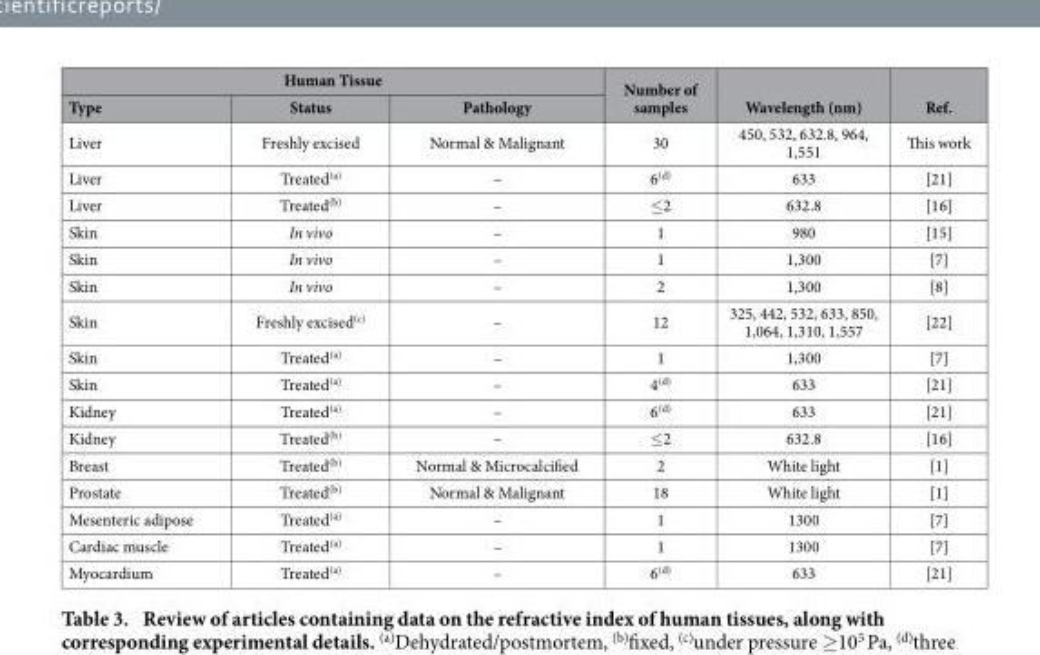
<table><thead><tr><td colspan="3">Human Tissue</td><td rowspan="2">Number of samples</td><td rowspan="2">Wavelength (nm)</td><td rowspan="2">Ref.</td></tr><tr><td>Type</td><td>Status</td><td>Pathology</td></tr></thead><tbody><tr><td>Liver</td><td>Freshly excised</td><td>Normal &amp; Malignant</td><td>30</td><td>450, 532, 632.8, 964, 1,551</td><td>This work</td></tr><tr><td>Liver</td><td>Treated<sup>(a)</sup></td><td>–</td><td>6<sup>(d)</sup></td><td>633</td><td>[21]</td></tr><tr><td>Liver</td><td>Treated<sup>(b)</sup></td><td>–</td><td>≤ 2</td><td>632.8</td><td>[16]</td></tr><tr><td>Skin</td><td>In vivo</td><td>–</td><td>1</td><td>980</td><td>[15]</td></tr><tr><td>Skin</td><td>In vivo</td><td>–</td><td>1</td><td>1,300</td><td>[7]</td></tr><tr><td>Skin</td><td>In vivo</td><td>–</td><td>2</td><td>1,300</td><td>[8]</td></tr><tr><td>Skin</td><td>Freshly excised<sup>(c)</sup></td><td>–</td><td>12</td><td>325, 442, 532, 633, 850, 1,064, 1,310, 1,557</td><td>[22]</td></tr><tr><td>Skin</td><td>Treated<sup>(a)</sup></td><td>–</td><td>1</td><td>1,300</td><td>[7]</td></tr><tr><td>Skin</td><td>Treated<sup>(a)</sup></td><td>–</td><td>4<sup>(d)</sup></td><td>633</td><td>[21]</td></tr><tr><td>Kidney</td><td>Treated<sup>(a)</sup></td><td>–</td><td>6<sup>(d)</sup></td><td>633</td><td>[21]</td></tr><tr><td>Kidney</td><td>Treated<sup>(b)</sup></td><td>–</td><td>≤ 2</td><td>632.8</td><td>[16]</td></tr><tr><td>Breast</td><td>Treated<sup>(b)</sup></td><td>Normal &amp; Microcalcified</td><td>2</td><td>White light</td><td>[1]</td></tr><tr><td>Prostate</td><td>Treated<sup>(b)</sup></td><td>Normal &amp; Malignant</td><td>18</td><td>White light</td><td>[1]</td></tr><tr><td>Mesenteric adipose</td><td>Treated<sup>(a)</sup></td><td>–</td><td>1</td><td>1300</td><td>[7]</td></tr><tr><td>Cardiac muscle</td><td>Treated<sup>(a)</sup></td><td>–</td><td>1</td><td>1300</td><td>[7]</td></tr><tr><td>Myocardium</td><td>Treated<sup>(a)</sup></td><td>–</td><td>6<sup>(d)</sup></td><td>633</td><td>[21]</td></tr></tbody></table>